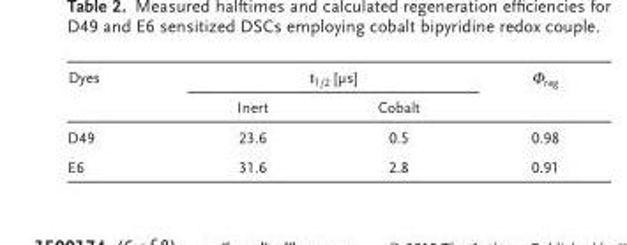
<table><thead><tr><td rowspan="2">Dyes</td><td colspan="2">t <sub>1/2</sub> [µs]</td><td rowspan="2">Φ <sub>reg</sub></td></tr><tr><td>Inert</td><td>Cobalt</td></tr></thead><tbody><tr><td>D49</td><td>23.6</td><td>0.5</td><td>0.98</td></tr><tr><td>E6</td><td>31.6</td><td>2.8</td><td>0.91</td></tr></tbody></table>